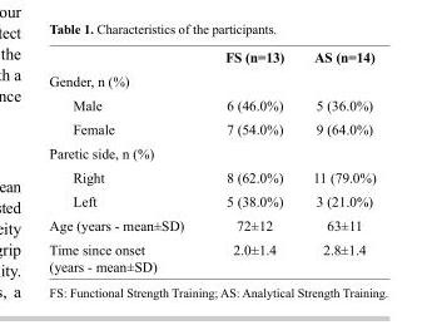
<table><thead><tr><td rowspan="2">Gender, n (%)</td><td rowspan="2">FS (n=13)</td><td rowspan="2">AS (n=14)</td></tr><tr></tr></thead><tbody><tr><td>Male</td><td>6 (46.0%)</td><td>5 (36.0%)</td></tr><tr><td>Female</td><td>7 (54.0%)</td><td>9 (64.0%)</td></tr><tr><td colspan="3">Paretic side, n (%)</td></tr><tr><td>Right</td><td>8 (62.0%)</td><td>11 (79.0%)</td></tr><tr><td>Left</td><td>5 (38.0%)</td><td>3 (21.0%)</td></tr><tr><td>Age (years - mean±SD)</td><td>72±12</td><td>63±11</td></tr><tr><td>Time since onset (years - mean±SD)</td><td>2.0±1.4</td><td>2.8±1.4</td></tr></tbody></table>